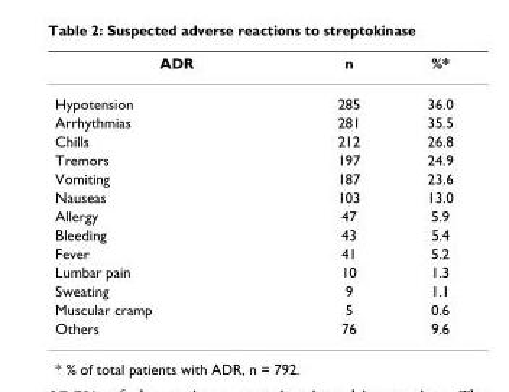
<table><thead><tr><td>ADR</td><td>n</td><td>%*</td></tr></thead><tbody><tr><td>Hypotension</td><td>285</td><td>36.0</td></tr><tr><td>Arrhythmias</td><td>281</td><td>35.5</td></tr><tr><td>Chills</td><td>212</td><td>26.8</td></tr><tr><td>Tremors</td><td>197</td><td>24.9</td></tr><tr><td>Vomiting</td><td>187</td><td>23.6</td></tr><tr><td>Nauseas</td><td>103</td><td>13.0</td></tr><tr><td>Allergy</td><td>47</td><td>5.9</td></tr><tr><td>Bleeding</td><td>43</td><td>5.4</td></tr><tr><td>Fever</td><td>41</td><td>5.2</td></tr><tr><td>Lumbar pain</td><td>10</td><td>1.3</td></tr><tr><td>Sweating</td><td>9</td><td>1.1</td></tr><tr><td>Muscular cramp</td><td>5</td><td>0.6</td></tr><tr><td>Others</td><td>76</td><td>9.6</td></tr></tbody></table>